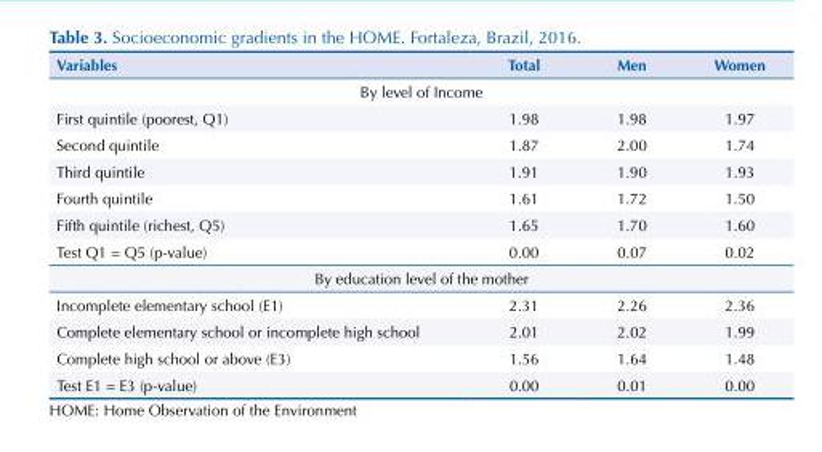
<table><thead><tr><td>Variables</td><td>Total</td><td>Men</td><td>Women</td></tr></thead><tbody><tr><td colspan="4">By level of Income</td></tr><tr><td>First quintile (poorest, Q1)</td><td>1.98</td><td>1.98</td><td>1.97</td></tr><tr><td>Second quintile</td><td>1.87</td><td>2.00</td><td>1.74</td></tr><tr><td>Third quintile</td><td>1.91</td><td>1.90</td><td>1.93</td></tr><tr><td>Fourth quintile</td><td>1.61</td><td>1.72</td><td>1.50</td></tr><tr><td>Fifth quintile (richest, Q5)</td><td>1.65</td><td>1.70</td><td>1.60</td></tr><tr><td>Test Q1 = Q5 (p-value)</td><td>0.00</td><td>0.07</td><td>0.02</td></tr><tr><td colspan="4">By education level of the mother</td></tr><tr><td>Incomplete elementary school (E1)</td><td>2.31</td><td>2.26</td><td>2.36</td></tr><tr><td>Complete elementary school or incomplete high school</td><td>2.01</td><td>2.02</td><td>1.99</td></tr><tr><td>Complete high school or above (E3)</td><td>1.56</td><td>1.64</td><td>1.48</td></tr><tr><td>Test E1 = E3 (p-value)</td><td>0.00</td><td>0.01</td><td>0.00</td></tr></tbody></table>